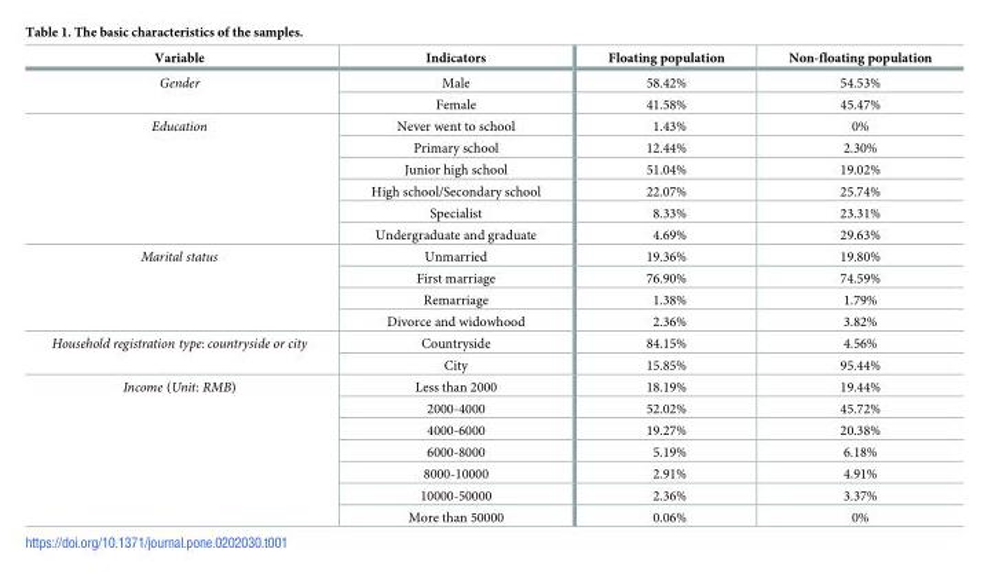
<table><thead><tr><td>Variable</td><td>Indicators</td><td>Floating population</td><td>Non-floating population</td></tr></thead><tbody><tr><td rowspan="2">Gender</td><td>Male</td><td>58.42%</td><td>54.53%</td></tr><tr><td>Female</td><td>41.58%</td><td>45.47%</td></tr><tr><td rowspan="6">Education</td><td>Never went to school</td><td>1.43%</td><td>0%</td></tr><tr><td>Primary school</td><td>12.44%</td><td>2.30%</td></tr><tr><td>Junior high school</td><td>51.04%</td><td>19.02%</td></tr><tr><td>High school/Secondary school</td><td>22.07%</td><td>25.74%</td></tr><tr><td>Specialist</td><td>8.33%</td><td>23.31%</td></tr><tr><td>Undergraduate and graduate</td><td>4.69%</td><td>29.63%</td></tr><tr><td rowspan="4">Marital status</td><td>Unmarried</td><td>19.36%</td><td>19.80%</td></tr><tr><td>First marriage</td><td>76.90%</td><td>74.59%</td></tr><tr><td>Remarriage</td><td>1.38%</td><td>1.79%</td></tr><tr><td>Divorce and widowhood</td><td>2.36%</td><td>3.82%</td></tr><tr><td rowspan="2">Household registration type: countryside or city</td><td>Countryside</td><td>84.15%</td><td>4.56%</td></tr><tr><td>City</td><td>15.85%</td><td>95.44%</td></tr><tr><td rowspan="7">Income (Unit: RMB)</td><td>Less than 2000</td><td>18.19%</td><td>19.44%</td></tr><tr><td>2000-4000</td><td>52.02%</td><td>45.72%</td></tr><tr><td>4000-6000</td><td>19.27%</td><td>20.38%</td></tr><tr><td>6000-8000</td><td>5.19%</td><td>6.18%</td></tr><tr><td>8000-10000</td><td>2.91%</td><td>4.91%</td></tr><tr><td>10000-50000</td><td>2.36%</td><td>3.37%</td></tr><tr><td>More than 50000</td><td>0.06%</td><td>0%</td></tr></tbody></table>